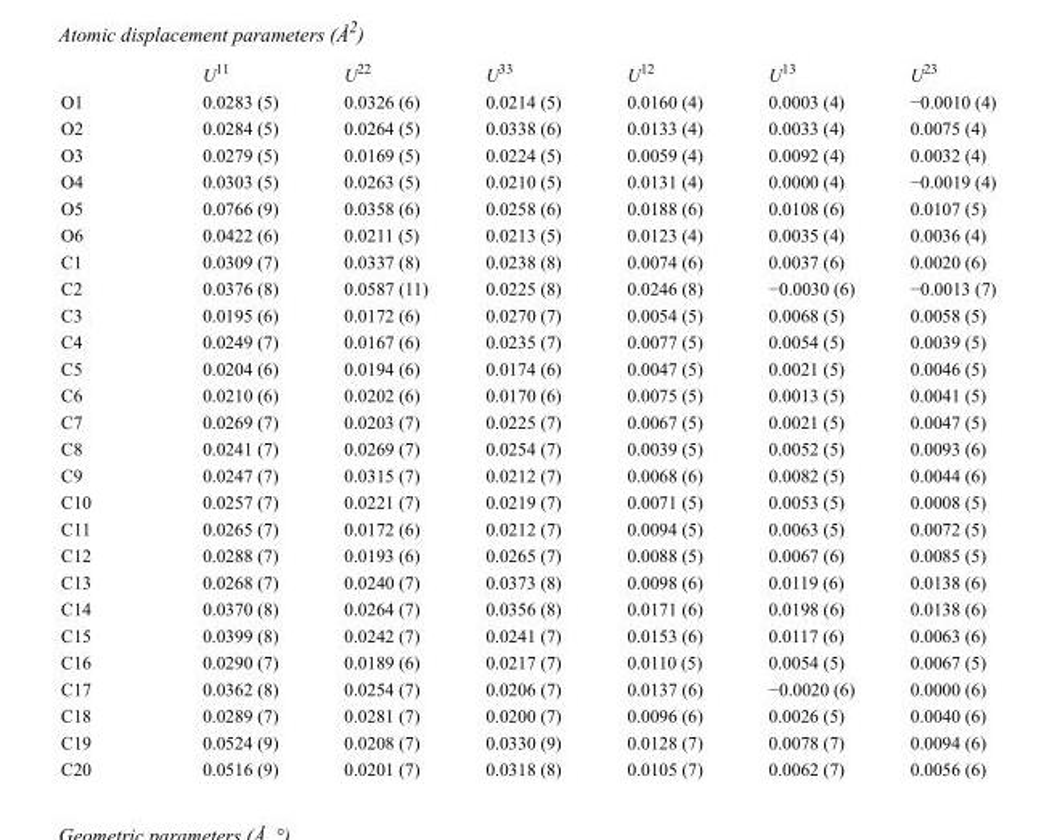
<table><thead><tr><td></td><td>U<sup>11</sup></td><td>U<sup>22</sup></td><td>U<sup>33</sup></td><td>U<sup>12</sup></td><td>U<sup>13</sup></td><td>U<sup>23</sup></td></tr></thead><tbody><tr><td>O1</td><td>0.0283 (5)</td><td>0.0326 (6)</td><td>0.0214 (5)</td><td>0.0160 (4)</td><td>0.0003 (4)</td><td>−0.0010 (4)</td></tr><tr><td>O2</td><td>0.0284 (5)</td><td>0.0264 (5)</td><td>0.0338 (6)</td><td>0.0133 (4)</td><td>0.0033 (4)</td><td>0.0075 (4)</td></tr><tr><td>O3</td><td>0.0279 (5)</td><td>0.0169 (5)</td><td>0.0224 (5)</td><td>0.0059 (4)</td><td>0.0092 (4)</td><td>0.0032 (4)</td></tr><tr><td>O4</td><td>0.0303 (5)</td><td>0.0263 (5)</td><td>0.0210 (5)</td><td>0.0131 (4)</td><td>0.0000 (4)</td><td>−0.0019 (4)</td></tr><tr><td>O5</td><td>0.0766 (9)</td><td>0.0358 (6)</td><td>0.0258 (6)</td><td>0.0188 (6)</td><td>0.0108 (6)</td><td>0.0107 (5)</td></tr><tr><td>O6</td><td>0.0422 (6)</td><td>0.0211 (5)</td><td>0.0213 (5)</td><td>0.0123 (4)</td><td>0.0035 (4)</td><td>0.0036 (4)</td></tr><tr><td>C1</td><td>0.0309 (7)</td><td>0.0337 (8)</td><td>0.0238 (8)</td><td>0.0074 (6)</td><td>0.0037 (6)</td><td>0.0020 (6)</td></tr><tr><td>C2</td><td>0.0376 (8)</td><td>0.0587 (11)</td><td>0.0225 (8)</td><td>0.0246 (8)</td><td>−0.0030 (6)</td><td>−0.0013 (7)</td></tr><tr><td>C3</td><td>0.0195 (6)</td><td>0.0172 (6)</td><td>0.0270 (7)</td><td>0.0054 (5)</td><td>0.0068 (5)</td><td>0.0058 (5)</td></tr><tr><td>C4</td><td>0.0249 (7)</td><td>0.0167 (6)</td><td>0.0235 (7)</td><td>0.0077 (5)</td><td>0.0054 (5)</td><td>0.0039 (5)</td></tr><tr><td>C5</td><td>0.0204 (6)</td><td>0.0194 (6)</td><td>0.0174 (6)</td><td>0.0047 (5)</td><td>0.0021 (5)</td><td>0.0046 (5)</td></tr><tr><td>C6</td><td>0.0210 (6)</td><td>0.0202 (6)</td><td>0.0170 (6)</td><td>0.0075 (5)</td><td>0.0013 (5)</td><td>0.0041 (5)</td></tr><tr><td>C7</td><td>0.0269 (7)</td><td>0.0203 (7)</td><td>0.0225 (7)</td><td>0.0067 (5)</td><td>0.0021 (5)</td><td>0.0047 (5)</td></tr><tr><td>C8</td><td>0.0241 (7)</td><td>0.0269 (7)</td><td>0.0254 (7)</td><td>0.0039 (5)</td><td>0.0052 (5)</td><td>0.0093 (6)</td></tr><tr><td>C9</td><td>0.0247 (7)</td><td>0.0315 (7)</td><td>0.0212 (7)</td><td>0.0068 (6)</td><td>0.0082 (5)</td><td>0.0044 (6)</td></tr><tr><td>C10</td><td>0.0257 (7)</td><td>0.0221 (7)</td><td>0.0219 (7)</td><td>0.0071 (5)</td><td>0.0053 (5)</td><td>0.0008 (5)</td></tr><tr><td>C11</td><td>0.0265 (7)</td><td>0.0172 (6)</td><td>0.0212 (7)</td><td>0.0094 (5)</td><td>0.0063 (5)</td><td>0.0072 (5)</td></tr><tr><td>C12</td><td>0.0288 (7)</td><td>0.0193 (6)</td><td>0.0265 (7)</td><td>0.0088 (5)</td><td>0.0067 (6)</td><td>0.0085 (5)</td></tr><tr><td>C13</td><td>0.0268 (7)</td><td>0.0240 (7)</td><td>0.0373 (8)</td><td>0.0098 (6)</td><td>0.0119 (6)</td><td>0.0138 (6)</td></tr><tr><td>C14</td><td>0.0370 (8)</td><td>0.0264 (7)</td><td>0.0356 (8)</td><td>0.0171 (6)</td><td>0.0198 (6)</td><td>0.0138 (6)</td></tr><tr><td>C15</td><td>0.0399 (8)</td><td>0.0242 (7)</td><td>0.0241 (7)</td><td>0.0153 (6)</td><td>0.0117 (6)</td><td>0.0063 (6)</td></tr><tr><td>C16</td><td>0.0290 (7)</td><td>0.0189 (6)</td><td>0.0217 (7)</td><td>0.0110 (5)</td><td>0.0054 (5)</td><td>0.0067 (5)</td></tr><tr><td>C17</td><td>0.0362 (8)</td><td>0.0254 (7)</td><td>0.0206 (7)</td><td>0.0137 (6)</td><td>−0.0020 (6)</td><td>0.0000 (6)</td></tr><tr><td>C18</td><td>0.0289 (7)</td><td>0.0281 (7)</td><td>0.0200 (7)</td><td>0.0096 (6)</td><td>0.0026 (5)</td><td>0.0040 (6)</td></tr><tr><td>C19</td><td>0.0524 (9)</td><td>0.0208 (7)</td><td>0.0330 (9)</td><td>0.0128 (7)</td><td>0.0078 (7)</td><td>0.0094 (6)</td></tr><tr><td>C20</td><td>0.0516 (9)</td><td>0.0201 (7)</td><td>0.0318 (8)</td><td>0.0105 (7)</td><td>0.0062 (7)</td><td>0.0056 (6)</td></tr></tbody></table>